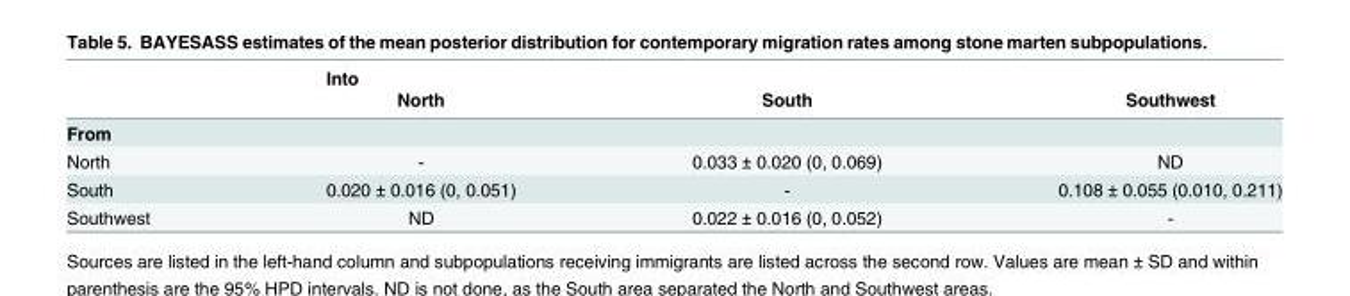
<table><thead><tr><td rowspan="2"></td><td rowspan="2">Into North</td><td rowspan="2">South</td><td rowspan="2">Southwest</td></tr><tr></tr></thead><tbody><tr><td colspan="4">From</td></tr><tr><td>North</td><td>-</td><td>0.033 ± 0.020 (0, 0.069)</td><td>ND</td></tr><tr><td>South</td><td>0.020 ± 0.016 (0, 0.051)</td><td>-</td><td>0.108 ± 0.055 (0.010, 0.211)</td></tr><tr><td>Southwest</td><td>ND</td><td>0.022 ± 0.016 (0, 0.052)</td><td>-</td></tr></tbody></table>